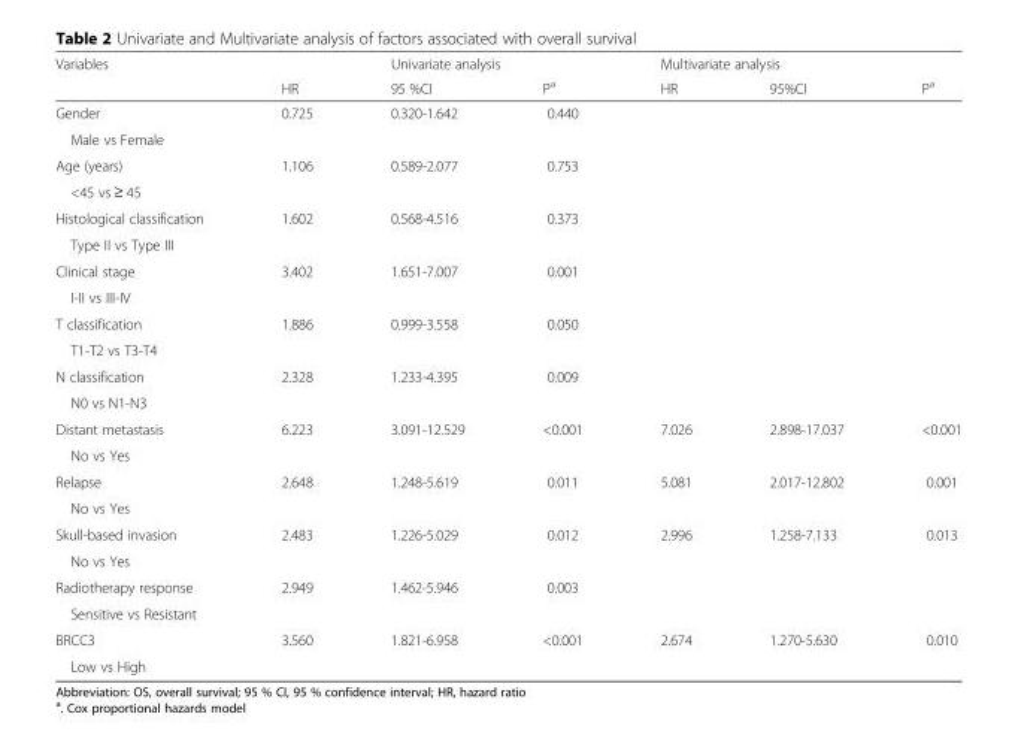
<table><thead><tr><td rowspan="2">Variables</td><td rowspan="2">HR</td><td colspan="2">Univariate analysis</td><td colspan="3">Multivariate analysis</td></tr><tr><td>95 %CI</td><td>P<sup>a</sup></td><td>HR</td><td>95%CI</td><td>P<sup>a</sup></td></tr></thead><tbody><tr><td>Gender</td><td rowspan="2">0.725</td><td rowspan="2">0.320-1.642</td><td rowspan="2">0.440</td><td rowspan="2"></td><td rowspan="2"></td><td rowspan="2"></td></tr><tr><td>Male vs Female</td></tr><tr><td>Age (years)</td><td rowspan="2">1.106</td><td rowspan="2">0.589-2.077</td><td rowspan="2">0.753</td><td rowspan="2"></td><td rowspan="2"></td><td rowspan="2"></td></tr><tr><td>&lt;45 vs ≥ 45</td></tr><tr><td>Histological classification</td><td rowspan="2">1.602</td><td rowspan="2">0.568-4.516</td><td rowspan="2">0.373</td><td rowspan="2"></td><td rowspan="2"></td><td rowspan="2"></td></tr><tr><td>Type II vs Type III</td></tr><tr><td>Clinical stage</td><td rowspan="2">3.402</td><td rowspan="2">1.651-7.007</td><td rowspan="2">0.001</td><td rowspan="2"></td><td rowspan="2"></td><td rowspan="2"></td></tr><tr><td>I-II vs III-IV</td></tr><tr><td>T classification</td><td rowspan="2">1.886</td><td rowspan="2">0.999-3.558</td><td rowspan="2">0.050</td><td rowspan="2"></td><td rowspan="2"></td><td rowspan="2"></td></tr><tr><td>T1-T2 vs T3-T4</td></tr><tr><td>N classification</td><td rowspan="2">2.328</td><td rowspan="2">1.233-4.395</td><td rowspan="2">0.009</td><td rowspan="2"></td><td rowspan="2"></td><td rowspan="2"></td></tr><tr><td>N0 vs N1-N3</td></tr><tr><td>Distant metastasis</td><td rowspan="2">6.223</td><td rowspan="2">3.091-12.529</td><td rowspan="2">&lt;0.001</td><td rowspan="2">7.026</td><td rowspan="2">2.898-17.037</td><td rowspan="2">&lt;0.001</td></tr><tr><td>No vs Yes</td></tr><tr><td>Relapse</td><td rowspan="2">2.648</td><td rowspan="2">1.248-5.619</td><td rowspan="2">0.011</td><td rowspan="2">5.081</td><td rowspan="2">2.017-12.802</td><td rowspan="2">0.001</td></tr><tr><td>No vs Yes</td></tr><tr><td>Skull-based invasion</td><td rowspan="2">2.483</td><td rowspan="2">1.226-5.029</td><td rowspan="2">0.012</td><td rowspan="2">2.996</td><td rowspan="2">1.258-7.133</td><td rowspan="2">0.013</td></tr><tr><td>No vs Yes</td></tr><tr><td>Radiotherapy response</td><td rowspan="2">2.949</td><td rowspan="2">1.462-5.946</td><td rowspan="2">0.003</td><td rowspan="2"></td><td rowspan="2"></td><td rowspan="2"></td></tr><tr><td>Sensitive vs Resistant</td></tr><tr><td>BRCC3</td><td rowspan="2">3.560</td><td rowspan="2">1.821-6.958</td><td rowspan="2">&lt;0.001</td><td rowspan="2">2.674</td><td rowspan="2">1.270-5.630</td><td rowspan="2">0.010</td></tr><tr><td>Low vs High</td></tr></tbody></table>